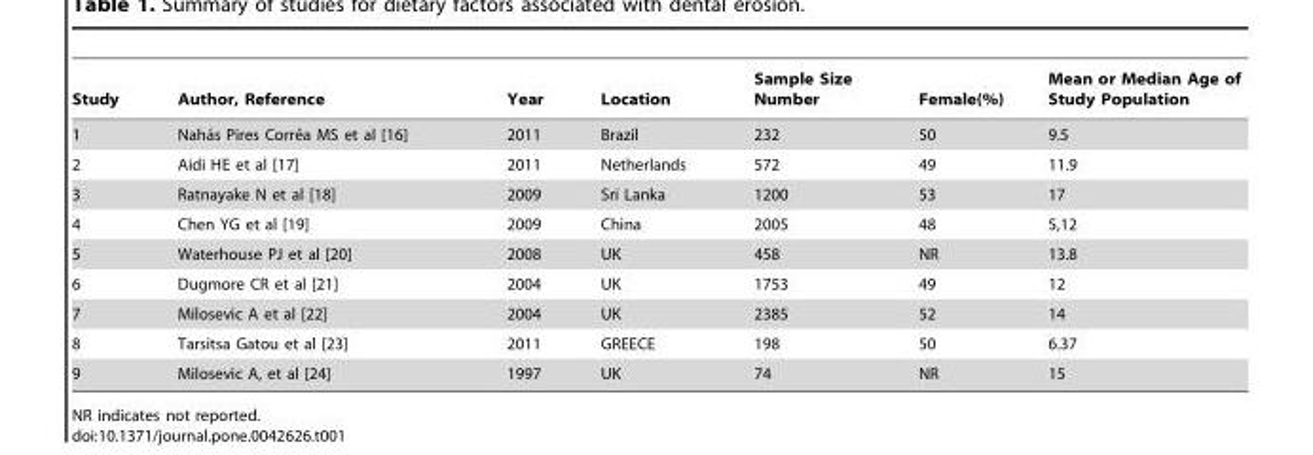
<table><thead><tr><td>Study</td><td>Author, Reference</td><td>Year</td><td>Location</td><td>Sample Size Number</td><td>Female(%)</td><td>Mean or Median Age of Study Population</td></tr></thead><tbody><tr><td>1</td><td>Naha´s Pires Correˆa MS et al [16]</td><td>2011</td><td>Brazil</td><td>232</td><td>50</td><td>9.5</td></tr><tr><td>2</td><td>Aidi HE et al [17]</td><td>2011</td><td>Netherlands</td><td>572</td><td>49</td><td>11.9</td></tr><tr><td>3</td><td>Ratnayake N et al [18]</td><td>2009</td><td>Sri Lanka</td><td>1200</td><td>53</td><td>17</td></tr><tr><td>4</td><td>Chen YG et al [19]</td><td>2009</td><td>China</td><td>2005</td><td>48</td><td>5,12</td></tr><tr><td>5</td><td>Waterhouse PJ et al [20]</td><td>2008</td><td>UK</td><td>458</td><td>NR</td><td>13.8</td></tr><tr><td>6</td><td>Dugmore CR et al [21]</td><td>2004</td><td>UK</td><td>1753</td><td>49</td><td>12</td></tr><tr><td>7</td><td>Milosevic A et al [22]</td><td>2004</td><td>UK</td><td>2385</td><td>52</td><td>14</td></tr><tr><td>8</td><td>Tarsitsa Gatou et al [23]</td><td>2011</td><td>GREECE</td><td>198</td><td>50</td><td>6.37</td></tr><tr><td>9</td><td>Milosevic A, et al [24]</td><td>1997</td><td>UK</td><td>74</td><td>NR</td><td>15</td></tr></tbody></table>